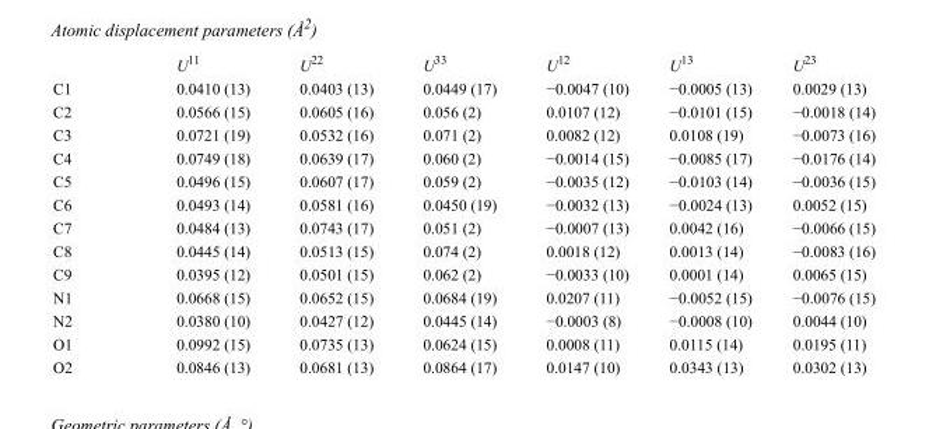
<table><thead><tr><td></td><td>U<sup>11</sup></td><td>U<sup>22</sup></td><td>U<sup>33</sup></td><td>U<sup>12</sup></td><td>U<sup>13</sup></td><td>U<sup>23</sup></td></tr></thead><tbody><tr><td>C1</td><td>0.0410 (13)</td><td>0.0403 (13)</td><td>0.0449 (17)</td><td>−0.0047 (10)</td><td>−0.0005 (13)</td><td>0.0029 (13)</td></tr><tr><td>C2</td><td>0.0566 (15)</td><td>0.0605 (16)</td><td>0.056 (2)</td><td>0.0107 (12)</td><td>−0.0101 (15)</td><td>−0.0018 (14)</td></tr><tr><td>C3</td><td>0.0721 (19)</td><td>0.0532 (16)</td><td>0.071 (2)</td><td>0.0082 (12)</td><td>0.0108 (19)</td><td>−0.0073 (16)</td></tr><tr><td>C4</td><td>0.0749 (18)</td><td>0.0639 (17)</td><td>0.060 (2)</td><td>−0.0014 (15)</td><td>−0.0085 (17)</td><td>−0.0176 (14)</td></tr><tr><td>C5</td><td>0.0496 (15)</td><td>0.0607 (17)</td><td>0.059 (2)</td><td>−0.0035 (12)</td><td>−0.0103 (14)</td><td>−0.0036 (15)</td></tr><tr><td>C6</td><td>0.0493 (14)</td><td>0.0581 (16)</td><td>0.0450 (19)</td><td>−0.0032 (13)</td><td>−0.0024 (13)</td><td>0.0052 (15)</td></tr><tr><td>C7</td><td>0.0484 (13)</td><td>0.0743 (17)</td><td>0.051 (2)</td><td>−0.0007 (13)</td><td>0.0042 (16)</td><td>−0.0066 (15)</td></tr><tr><td>C8</td><td>0.0445 (14)</td><td>0.0513 (15)</td><td>0.074 (2)</td><td>0.0018 (12)</td><td>0.0013 (14)</td><td>−0.0083 (16)</td></tr><tr><td>C9</td><td>0.0395 (12)</td><td>0.0501 (15)</td><td>0.062 (2)</td><td>−0.0033 (10)</td><td>0.0001 (14)</td><td>0.0065 (15)</td></tr><tr><td>N1</td><td>0.0668 (15)</td><td>0.0652 (15)</td><td>0.0684 (19)</td><td>0.0207 (11)</td><td>−0.0052 (15)</td><td>−0.0076 (15)</td></tr><tr><td>N2</td><td>0.0380 (10)</td><td>0.0427 (12)</td><td>0.0445 (14)</td><td>−0.0003 (8)</td><td>−0.0008 (10)</td><td>0.0044 (10)</td></tr><tr><td>O1</td><td>0.0992 (15)</td><td>0.0735 (13)</td><td>0.0624 (15)</td><td>0.0008 (11)</td><td>0.0115 (14)</td><td>0.0195 (11)</td></tr><tr><td>O2</td><td>0.0846 (13)</td><td>0.0681 (13)</td><td>0.0864 (17)</td><td>0.0147 (10)</td><td>0.0343 (13)</td><td>0.0302 (13)</td></tr></tbody></table>